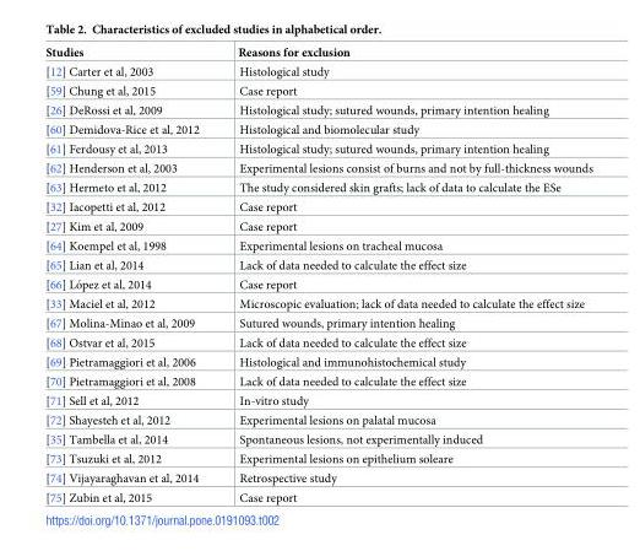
<table><thead><tr><td>Studies</td><td>Reasons for exclusion</td></tr></thead><tbody><tr><td>[12] Carter et al, 2003</td><td>Histological study</td></tr><tr><td>[59] Chung et al, 2015</td><td>Case report</td></tr><tr><td>[26] DeRossi et al, 2009</td><td>Histological study; sutured wounds, primary intention healing</td></tr><tr><td>[60] Demidova-Rice et al, 2012</td><td>Histological and biomolecular study</td></tr><tr><td>[61] Ferdousy et al, 2013</td><td>Histological study; sutured wounds, primary intention healing</td></tr><tr><td>[62] Henderson et al, 2003</td><td>Experimental lesions consist of burns and not by full-thickness wounds</td></tr><tr><td>[63] Hermeto et al, 2012</td><td>The study considered skin grafts; lack of data to calculate the ESe</td></tr><tr><td>[32] Iacopetti et al, 2012</td><td>Case report</td></tr><tr><td>[27] Kim et al, 2009</td><td>Case report</td></tr><tr><td>[64] Koempel et al, 1998</td><td>Experimental lesions on tracheal mucosa</td></tr><tr><td>[65] Lian et al, 2014</td><td>Lack of data needed to calculate the effect size</td></tr><tr><td>[66] Lo´pez et al, 2014</td><td>Case report</td></tr><tr><td>[33] Maciel et al, 2012</td><td>Microscopic evaluation; lack of data needed to calculate the effect size</td></tr><tr><td>[67] Molina-Minao et al, 2009</td><td>Sutured wounds, primary intention healing</td></tr><tr><td>[68] Ostvar et al, 2015</td><td>Lack of data needed to calculate the effect size</td></tr><tr><td>[69] Pietramaggiori et al, 2006</td><td>Histological and immunohistochemical study</td></tr><tr><td>[70] Pietramaggiori et al, 2008</td><td>Lack of data needed to calculate the effect size</td></tr><tr><td>[71] Sell et al, 2012</td><td>In-vitro study</td></tr><tr><td>[72] Shayesteh et al, 2012</td><td>Experimental lesions on palatal mucosa</td></tr><tr><td>[35] Tambella et al, 2014</td><td>Spontaneous lesions, not experimentally induced</td></tr><tr><td>[73] Tsuzuki et al, 2012</td><td>Experimental lesions on epithelium soleare</td></tr><tr><td>[74] Vijayaraghavan et al, 2014</td><td>Retrospective study</td></tr><tr><td>[75] Zubin et al, 2015</td><td>Case report</td></tr></tbody></table>